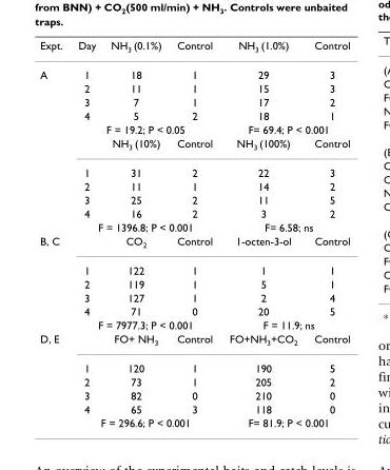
<table><thead><tr><td>Expt.</td><td>Day</td><td>NH<sub>3</sub> (0.1%)</td><td>Control</td><td>NH<sub>3</sub> (1.0%)</td><td>Control</td></tr></thead><tbody><tr><td rowspan="11">A</td><td>1</td><td>18</td><td>1</td><td>29</td><td>3</td></tr><tr><td>2</td><td>11</td><td>1</td><td>15</td><td>3</td></tr><tr><td>3</td><td>7</td><td>1</td><td>17</td><td>2</td></tr><tr><td>4</td><td>5</td><td>2</td><td>18</td><td>1</td></tr><tr><td colspan="3">F = 19.2; P &lt; 0.05</td><td colspan="2">F= 69.4; P &lt; 0.001</td></tr><tr><td></td><td>NH<sub>3</sub> (10%)</td><td>Control</td><td>NH<sub>3</sub> (100%)</td><td>Control</td></tr><tr><td>1</td><td>31</td><td>2</td><td>22</td><td>3</td></tr><tr><td>2</td><td>11</td><td>1</td><td>14</td><td>2</td></tr><tr><td>3</td><td>25</td><td>2</td><td>11</td><td>5</td></tr><tr><td>4</td><td>16</td><td>2</td><td>3</td><td>2</td></tr><tr><td colspan="3">F = 1396.8; P &lt; 0.001</td><td colspan="2">F= 6.58; ns</td></tr><tr><td rowspan="6">B, C</td><td></td><td>CO<sub>2</sub></td><td>Control</td><td>1-octen-3-ol</td><td>Control</td></tr><tr><td>1</td><td>122</td><td>1</td><td>1</td><td>1</td></tr><tr><td>2</td><td>119</td><td>1</td><td>5</td><td>1</td></tr><tr><td>3</td><td>127</td><td>1</td><td>2</td><td>4</td></tr><tr><td>4</td><td>71</td><td>0</td><td>20</td><td>5</td></tr><tr><td colspan="3">F = 7977.3; P &lt; 0.001</td><td colspan="2">F = 11.9; ns</td></tr><tr><td rowspan="6">D, E</td><td></td><td>FO+ NH<sub>3</sub></td><td>Control</td><td>FO+NH<sub>3</sub>+CO<sub>2</sub></td><td>Control</td></tr><tr><td>1</td><td>120</td><td>1</td><td>190</td><td>5</td></tr><tr><td>2</td><td>73</td><td>1</td><td>205</td><td>2</td></tr><tr><td>3</td><td>82</td><td>0</td><td>210</td><td>0</td></tr><tr><td>4</td><td>65</td><td>3</td><td>118</td><td>0</td></tr><tr><td colspan="3">F = 296.6; P &lt; 0.001</td><td colspan="2">F= 81.9; P &lt; 0.001</td></tr></tbody></table>